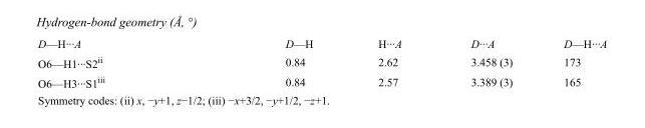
<table><tbody><tr><td>D—H···A</td><td>D—H</td><td>H···A</td><td>D···A</td><td>D—H···A</td></tr><tr><td>O6—H1···S2<sup>ii</sup></td><td>0.84</td><td>2.62</td><td>3.458 (3)</td><td>173</td></tr><tr><td>O6—H3···S1<sup>iii</sup></td><td>0.84</td><td>2.57</td><td>3.389 (3)</td><td>165</td></tr></tbody></table>